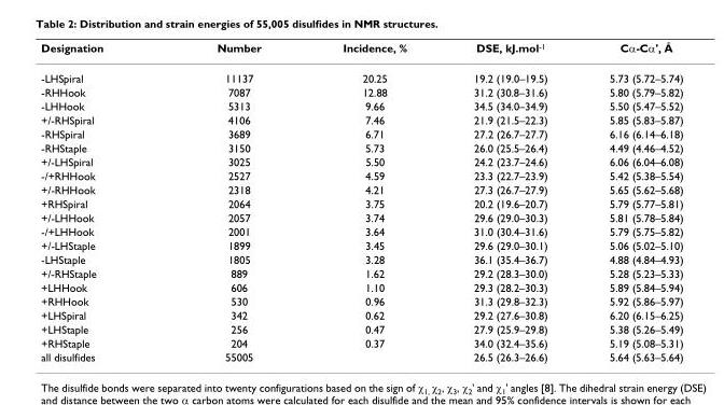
<table><thead><tr><td>Designation</td><td>Number</td><td>Incidence, %</td><td>DSE, kJ.mol<sup>-1</sup></td><td>Cα-Cα&#x27;, Å</td></tr></thead><tbody><tr><td>-LHSpiral</td><td>11137</td><td>20.25</td><td>19.2 (19.0–19.5)</td><td>5.73 (5.72–5.74)</td></tr><tr><td>-RHHook</td><td>7087</td><td>12.88</td><td>31.2 (30.8–31.6)</td><td>5.80 (5.79–5.82)</td></tr><tr><td>-LHHook</td><td>5313</td><td>9.66</td><td>34.5 (34.0–34.9)</td><td>5.50 (5.47–5.52)</td></tr><tr><td>+/-RHSpiral</td><td>4106</td><td>7.46</td><td>21.9 (21.5–22.3)</td><td>5.85 (5.83–5.87)</td></tr><tr><td>-RHSpiral</td><td>3689</td><td>6.71</td><td>27.2 (26.7–27.7)</td><td>6.16 (6.14–6.18)</td></tr><tr><td>-RHStaple</td><td>3150</td><td>5.73</td><td>26.0 (25.5–26.4)</td><td>4.49 (4.46–4.52)</td></tr><tr><td>+/-LHSpiral</td><td>3025</td><td>5.50</td><td>24.2 (23.7–24.6)</td><td>6.06 (6.04–6.08)</td></tr><tr><td>-/+RHHook</td><td>2527</td><td>4.59</td><td>23.3 (22.7–23.9)</td><td>5.42 (5.38–5.54)</td></tr><tr><td>+/-RHHook</td><td>2318</td><td>4.21</td><td>27.3 (26.7–27.9)</td><td>5.65 (5.62–5.68)</td></tr><tr><td>+RHSpiral</td><td>2064</td><td>3.75</td><td>20.2 (19.6–20.7)</td><td>5.79 (5.77–5.81)</td></tr><tr><td>+/-LHHook</td><td>2057</td><td>3.74</td><td>29.6 (29.0–30.3)</td><td>5.81 (5.78–5.84)</td></tr><tr><td>-/+LHHook</td><td>2001</td><td>3.64</td><td>31.0 (30.4–31.6)</td><td>5.79 (5.75–5.82)</td></tr><tr><td>+/-LHStaple</td><td>1899</td><td>3.45</td><td>29.6 (29.0–30.1)</td><td>5.06 (5.02–5.10)</td></tr><tr><td>-LHStaple</td><td>1805</td><td>3.28</td><td>36.1 (35.4–36.7)</td><td>4.88 (4.84–4.93)</td></tr><tr><td>+/-RHStaple</td><td>889</td><td>1.62</td><td>29.2 (28.3–30.0)</td><td>5.28 (5.23–5.33)</td></tr><tr><td>+LHHook</td><td>606</td><td>1.10</td><td>29.3 (28.2–30.3)</td><td>5.89 (5.84–5.94)</td></tr><tr><td>+RHHook</td><td>530</td><td>0.96</td><td>31.3 (29.8–32.3)</td><td>5.92 (5.86–5.97)</td></tr><tr><td>+LHSpiral</td><td>342</td><td>0.62</td><td>29.2 (27.6–30.8)</td><td>6.20 (6.15–6.25)</td></tr><tr><td>+LHStaple</td><td>256</td><td>0.47</td><td>27.9 (25.9–29.8)</td><td>5.38 (5.26–5.49)</td></tr><tr><td>+RHStaple</td><td>204</td><td>0.37</td><td>34.0 (32.4–35.6)</td><td>5.19 (5.08–5.31)</td></tr><tr><td>all disulfides</td><td>55005</td><td></td><td>26.5 (26.3–26.6)</td><td>5.64 (5.63–5.64)</td></tr></tbody></table>